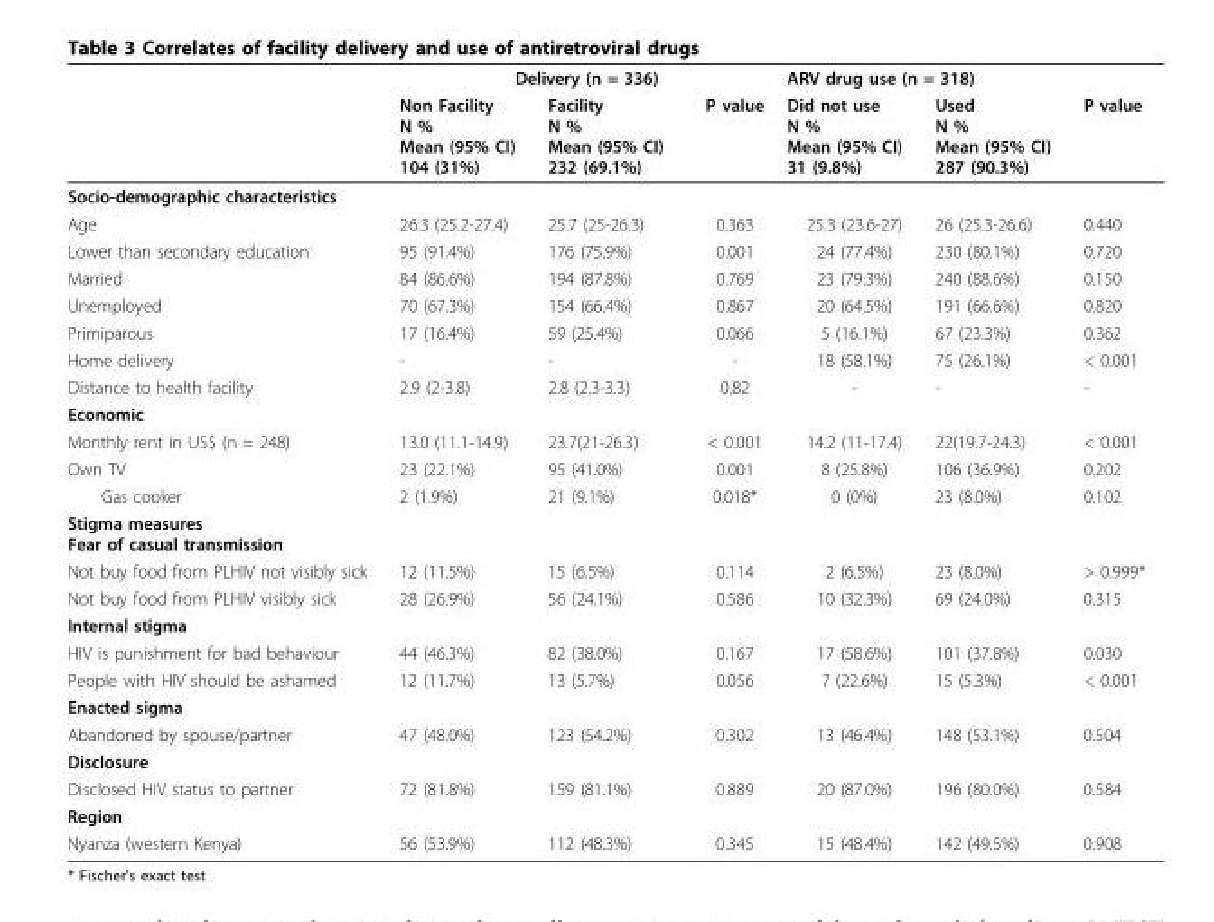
<table><thead><tr><td rowspan="2"></td><td colspan="3">Delivery (n = 336)</td><td colspan="3">ARV drug use (n = 318)</td></tr><tr><td>Non Facility N % Mean (95% CI) 104 (31%)</td><td>Facility N % Mean (95% CI) 232 (69.1%)</td><td>P value</td><td>Did not use N % Mean (95% CI) 31 (9.8%)</td><td>Used N % Mean (95% CI) 287 (90.3%)</td><td>P value</td></tr></thead><tbody><tr><td colspan="7">Socio-demographic characteristics</td></tr><tr><td>Age</td><td>26.3 (25.2-27.4)</td><td>25.7 (25-26.3)</td><td>0.363</td><td>25.3 (23.6-27)</td><td>26 (25.3-26.6)</td><td>0.440</td></tr><tr><td>Lower than secondary education</td><td>95 (91.4%)</td><td>176 (75.9%)</td><td>0.001</td><td>24 (77.4%)</td><td>230 (80.1%)</td><td>0.720</td></tr><tr><td>Married</td><td>84 (86.6%)</td><td>194 (87.8%)</td><td>0.769</td><td>23 (79.3%)</td><td>240 (88.6%)</td><td>0.150</td></tr><tr><td>Unemployed</td><td>70 (67.3%)</td><td>154 (66.4%)</td><td>0.867</td><td>20 (64.5%)</td><td>191 (66.6%)</td><td>0.820</td></tr><tr><td>Primiparous</td><td>17 (16.4%)</td><td>59 (25.4%)</td><td>0.066</td><td>5 (16.1%)</td><td>67 (23.3%)</td><td>0.362</td></tr><tr><td>Home delivery</td><td>-</td><td>-</td><td>-</td><td>18 (58.1%)</td><td>75 (26.1%)</td><td>&lt; 0.001</td></tr><tr><td>Distance to health facility</td><td>2.9 (2-3.8)</td><td>2.8 (2.3-3.3)</td><td>0.82</td><td>-</td><td>-</td><td>-</td></tr><tr><td colspan="7">Economic</td></tr><tr><td>Monthly rent in US$ (n = 248)</td><td>13.0 (11.1-14.9)</td><td>23.7(21-26.3)</td><td>&lt; 0.001</td><td>14.2 (11-17.4)</td><td>22(19.7-24.3)</td><td>&lt; 0.001</td></tr><tr><td>Own TV</td><td>23 (22.1%)</td><td>95 (41.0%)</td><td>0.001</td><td>8 (25.8%)</td><td>106 (36.9%)</td><td>0.202</td></tr><tr><td>Gas cooker</td><td>2 (1.9%)</td><td>21 (9.1%)</td><td>0.018*</td><td>0 (0%)</td><td>23 (8.0%)</td><td>0.102</td></tr><tr><td colspan="7">Stigma measures Fear of casual transmission</td></tr><tr><td>Not buy food from PLHIV not visibly sick</td><td>12 (11.5%)</td><td>15 (6.5%)</td><td>0.114</td><td>2 (6.5%)</td><td>23 (8.0%)</td><td>&gt; 0.999*</td></tr><tr><td>Not buy food from PLHIV visibly sick</td><td>28 (26.9%)</td><td>56 (24.1%)</td><td>0.586</td><td>10 (32.3%)</td><td>69 (24.0%)</td><td>0.315</td></tr><tr><td colspan="7">Internal stigma</td></tr><tr><td>HIV is punishment for bad behaviour</td><td>44 (46.3%)</td><td>82 (38.0%)</td><td>0.167</td><td>17 (58.6%)</td><td>101 (37.8%)</td><td>0.030</td></tr><tr><td>People with HIV should be ashamed</td><td>12 (11.7%)</td><td>13 (5.7%)</td><td>0.056</td><td>7 (22.6%)</td><td>15 (5.3%)</td><td>&lt; 0.001</td></tr><tr><td colspan="7">Enacted sigma</td></tr><tr><td>Abandoned by spouse/partner</td><td>47 (48.0%)</td><td>123 (54.2%)</td><td>0.302</td><td>13 (46.4%)</td><td>148 (53.1%)</td><td>0.504</td></tr><tr><td colspan="7">Disclosure</td></tr><tr><td>Disclosed HIV status to partner</td><td>72 (81.8%)</td><td>159 (81.1%)</td><td>0.889</td><td>20 (87.0%)</td><td>196 (80.0%)</td><td>0.584</td></tr><tr><td colspan="7">Region</td></tr><tr><td>Nyanza (western Kenya)</td><td>56 (53.9%)</td><td>112 (48.3%)</td><td>0.345</td><td>15 (48.4%)</td><td>142 (49.5%)</td><td>0.908</td></tr></tbody></table>